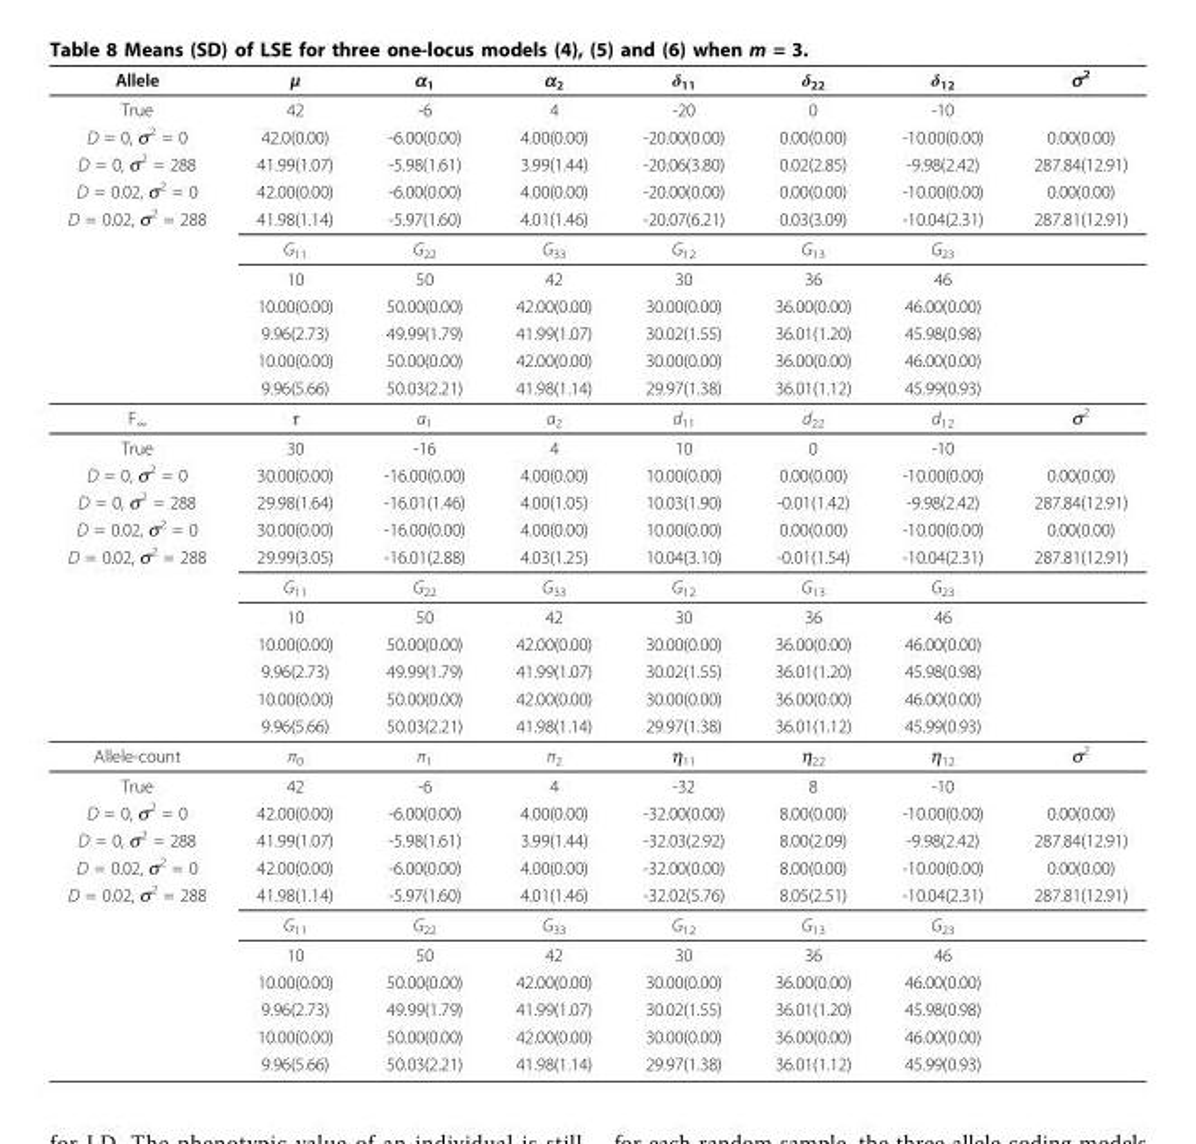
<table><thead><tr><td>Allele</td><td>μ</td><td>α<sub>1</sub></td><td>α<sub>2</sub></td><td>δ<sub>11</sub></td><td>δ<sub>22</sub></td><td>δ<sub>12</sub></td><td>σ<sup>2</sup></td></tr></thead><tbody><tr><td>True</td><td>42</td><td>-6</td><td>4</td><td>-20</td><td>0</td><td>-10</td><td></td></tr><tr><td>D = 0, σ<sup>2</sup> = 0</td><td>42.0(0.00)</td><td>-6.00(0.00)</td><td>4.00(0.00)</td><td>-20.00(0.00)</td><td>0.00(0.00)</td><td>-10.00(0.00)</td><td>0.00(0.00)</td></tr><tr><td>D = 0, σ<sup>2</sup> = 288</td><td>41.99(1.07)</td><td>-5.98(1.61)</td><td>3.99(1.44)</td><td>-20.06(3.80)</td><td>0.02(2.85)</td><td>-9.98(2.42)</td><td>287.84(12.91)</td></tr><tr><td>D = 0.02, σ<sup>2</sup> = 0</td><td>42.00(0.00)</td><td>-6.00(0.00)</td><td>4.00(0.00)</td><td>-20.00(0.00)</td><td>0.00(0.00)</td><td>-10.00(0.00)</td><td>0.00(0.00)</td></tr><tr><td rowspan="7">D = 0.02, σ<sup>2</sup> = 288</td><td>41.98(1.14)</td><td>-5.97(1.60)</td><td>4.01(1.46)</td><td>-20.07(6.21)</td><td>0.03(3.09)</td><td>-10.04(2.31)</td><td>287.81(12.91)</td></tr><tr><td>G<sub>11</sub></td><td>G<sub>22</sub></td><td>G<sub>33</sub></td><td>G<sub>12</sub></td><td>G<sub>13</sub></td><td>G<sub>23</sub></td><td></td></tr><tr><td>10</td><td>50</td><td>42</td><td>30</td><td>36</td><td>46</td><td></td></tr><tr><td>10.00(0.00)</td><td>50.00(0.00)</td><td>42.00(0.00)</td><td>30.00(0.00)</td><td>36.00(0.00)</td><td>46.00(0.00)</td><td></td></tr><tr><td>9.96(2.73)</td><td>49.99(1.79)</td><td>41.99(1.07)</td><td>30.02(1.55)</td><td>36.01(1.20)</td><td>45.98(0.98)</td><td></td></tr><tr><td>10.00(0.00)</td><td>50.00(0.00)</td><td>42.00(0.00)</td><td>30.00(0.00)</td><td>36.00(0.00)</td><td>46.00(0.00)</td><td></td></tr><tr><td>9.96(5.66)</td><td>50.03(2.21)</td><td>41.98(1.14)</td><td>29.97(1.38)</td><td>36.01(1.12)</td><td>45.99(0.93)</td><td></td></tr><tr><td>F<sub>∞</sub></td><td>τ</td><td>a<sub>1</sub></td><td>a<sub>2</sub></td><td>d<sub>11</sub></td><td>d<sub>22</sub></td><td>d<sub>12</sub></td><td>σ<sup>2</sup></td></tr><tr><td>True</td><td>30</td><td>-16</td><td>4</td><td>10</td><td>0</td><td>-10</td><td></td></tr><tr><td>D = 0, σ<sup>2</sup> = 0</td><td>30.00(0.00)</td><td>-16.00(0.00)</td><td>4.00(0.00)</td><td>10.00(0.00)</td><td>0.00(0.00)</td><td>-10.00(0.00)</td><td>0.00(0.00)</td></tr><tr><td>D = 0, σ<sup>2</sup> = 288</td><td>29.98(1.64)</td><td>-16.01(1.46)</td><td>4.00(1.05)</td><td>10.03(1.90)</td><td>-0.01(1.42)</td><td>-9.98(2.42)</td><td>287.84(12.91)</td></tr><tr><td>D = 0.02, σ<sup>2</sup> = 0</td><td>30.00(0.00)</td><td>-16.00(0.00)</td><td>4.00(0.00)</td><td>10.00(0.00)</td><td>0.00(0.00)</td><td>-10.00(0.00)</td><td>0.00(0.00)</td></tr><tr><td rowspan="7">D = 0.02, σ<sup>2</sup> = 288</td><td>29.99(3.05)</td><td>-16.01(2.88)</td><td>4.03(1.25)</td><td>10.04(3.10)</td><td>-0.01(1.54)</td><td>-10.04(2.31)</td><td>287.81(12.91)</td></tr><tr><td>G<sub>11</sub></td><td>G<sub>22</sub></td><td>G<sub>33</sub></td><td>G<sub>12</sub></td><td>G<sub>13</sub></td><td>G<sub>23</sub></td><td></td></tr><tr><td>10</td><td>50</td><td>42</td><td>30</td><td>36</td><td>46</td><td></td></tr><tr><td>10.00(0.00)</td><td>50.00(0.00)</td><td>42.00(0.00)</td><td>30.00(0.00)</td><td>36.00(0.00)</td><td>46.00(0.00)</td><td></td></tr><tr><td>9.96(2.73)</td><td>49.99(1.79)</td><td>41.99(1.07)</td><td>30.02(1.55)</td><td>36.01(1.20)</td><td>45.98(0.98)</td><td></td></tr><tr><td>10.00(0.00)</td><td>50.00(0.00)</td><td>42.00(0.00)</td><td>30.00(0.00)</td><td>36.00(0.00)</td><td>46.00(0.00)</td><td></td></tr><tr><td>9.96(5.66)</td><td>50.03(2.21)</td><td>41.98(1.14)</td><td>29.97(1.38)</td><td>36.01(1.12)</td><td>45.99(0.93)</td><td></td></tr><tr><td>Allele-count</td><td>π<sub>0</sub></td><td>π<sub>1</sub></td><td>π<sub>2</sub></td><td>η<sub>11</sub></td><td>η<sub>22</sub></td><td>η<sub>12</sub></td><td>σ<sup>2</sup></td></tr><tr><td>True</td><td>42</td><td>-6</td><td>4</td><td>-32</td><td>8</td><td>-10</td><td></td></tr><tr><td>D = 0, σ<sup>2</sup> = 0</td><td>42.00(0.00)</td><td>-6.00(0.00)</td><td>4.00(0.00)</td><td>-32.00(0.00)</td><td>8.00(0.00)</td><td>-10.00(0.00)</td><td>0.00(0.00)</td></tr><tr><td>D = 0, σ<sup>2</sup> = 288</td><td>41.99(1.07)</td><td>-5.98(1.61)</td><td>3.99(1.44)</td><td>-32.03(2.92)</td><td>8.00(2.09)</td><td>-9.98(2.42)</td><td>287.84(12.91)</td></tr><tr><td>D = 0.02, σ<sup>2</sup> = 0</td><td>42.00(0.00)</td><td>-6.00(0.00)</td><td>4.00(0.00)</td><td>-32.00(0.00)</td><td>8.00(0.00)</td><td>-10.00(0.00)</td><td>0.00(0.00)</td></tr><tr><td rowspan="7">D = 0.02, σ<sup>2</sup> = 288</td><td>41.98(1.14)</td><td>-5.97(1.60)</td><td>4.01(1.46)</td><td>-32.02(5.76)</td><td>8.05(2.51)</td><td>-10.04(2.31)</td><td>287.81(12.91)</td></tr><tr><td>G<sub>11</sub></td><td>G<sub>22</sub></td><td>G<sub>33</sub></td><td>G<sub>12</sub></td><td>G<sub>13</sub></td><td>G<sub>23</sub></td><td></td></tr><tr><td>10</td><td>50</td><td>42</td><td>30</td><td>36</td><td>46</td><td></td></tr><tr><td>10.00(0.00)</td><td>50.00(0.00)</td><td>42.00(0.00)</td><td>30.00(0.00)</td><td>36.00(0.00)</td><td>46.00(0.00)</td><td></td></tr><tr><td>9.96(2.73)</td><td>49.99(1.79)</td><td>41.99(1.07)</td><td>30.02(1.55)</td><td>36.01(1.20)</td><td>45.98(0.98)</td><td></td></tr><tr><td>10.00(0.00)</td><td>50.00(0.00)</td><td>42.00(0.00)</td><td>30.00(0.00)</td><td>36.00(0.00)</td><td>46.00(0.00)</td><td></td></tr><tr><td>9.96(5.66)</td><td>50.03(2.21)</td><td>41.98(1.14)</td><td>29.97(1.38)</td><td>36.01(1.12)</td><td>45.99(0.93)</td><td></td></tr></tbody></table>